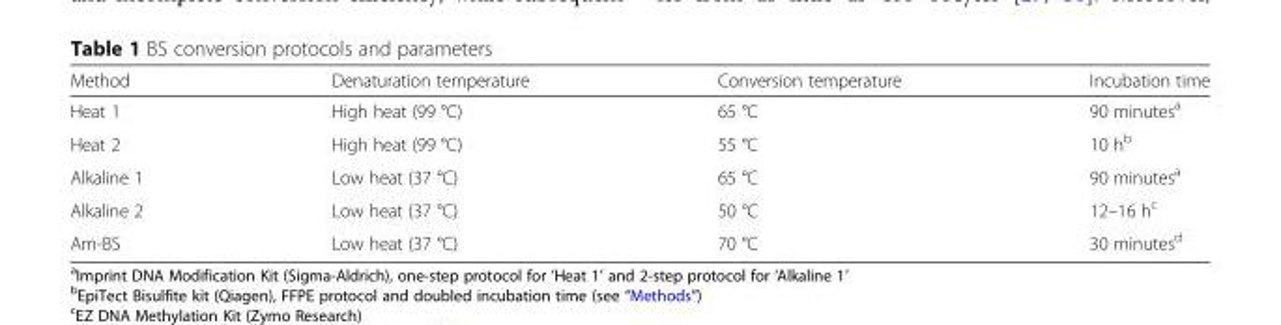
<table><thead><tr><td>Method</td><td>Denaturation temperature</td><td>Conversion temperature</td><td>Incubation time</td></tr></thead><tbody><tr><td>Heat 1</td><td>High heat (99 °C)</td><td>65 °C</td><td>90 minutes<sup>a</sup></td></tr><tr><td>Heat 2</td><td>High heat (99 °C)</td><td>55 °C</td><td>10 h<sup>b</sup></td></tr><tr><td>Alkaline 1</td><td>Low heat (37 °C)</td><td>65 °C</td><td>90 minutes<sup>a</sup></td></tr><tr><td>Alkaline 2</td><td>Low heat (37 °C)</td><td>50 °C</td><td>12–16 h<sup>c</sup></td></tr><tr><td>Am-BS</td><td>Low heat (37 °C)</td><td>70 °C</td><td>30 minutes<sup>d</sup></td></tr></tbody></table>